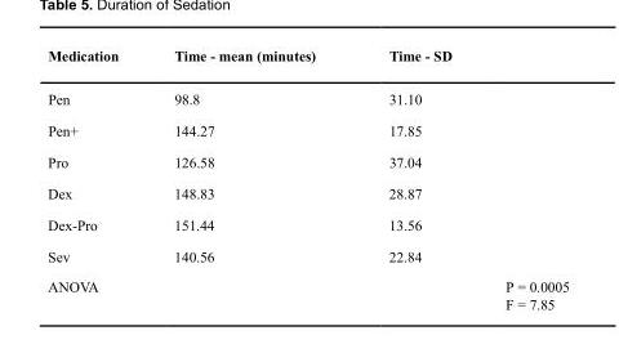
<table><thead><tr><td>Medication</td><td>Time - mean (minutes)</td><td>Time - SD</td><td></td></tr></thead><tbody><tr><td>Pen</td><td>98.8</td><td>31.10</td><td></td></tr><tr><td>Pen+</td><td>144.27</td><td>17.85</td><td></td></tr><tr><td>Pro</td><td>126.58</td><td>37.04</td><td></td></tr><tr><td>Dex</td><td>148.83</td><td>28.87</td><td></td></tr><tr><td>Dex-Pro</td><td>151.44</td><td>13.56</td><td></td></tr><tr><td>Sev</td><td>140.56</td><td>22.84</td><td></td></tr><tr><td rowspan="2">ANOVA</td><td></td><td></td><td>P = 0.0005</td></tr><tr><td></td><td></td><td>F = 7.85</td></tr></tbody></table>